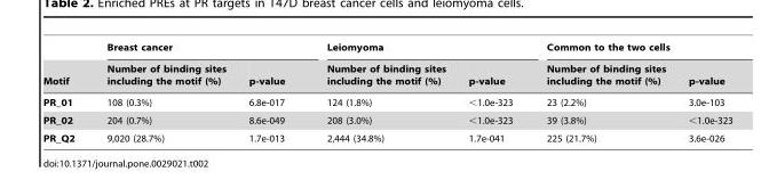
<table><thead><tr><td rowspan="2">Motif</td><td colspan="2">Breast cancer</td><td colspan="2">Leiomyoma</td><td colspan="2">Common to the two cells</td></tr><tr><td>Number of binding sites including the motif (%)</td><td>p-value</td><td>Number of binding sites including the motif (%)</td><td>p-value</td><td>Number of binding sites including the motif (%)</td><td>p-value</td></tr></thead><tbody><tr><td>PR_01</td><td>108 (0.3%)</td><td>6.8e-017</td><td>124 (1.8%)</td><td>&lt;1.0e-323</td><td>23 (2.2%)</td><td>3.0e-103</td></tr><tr><td>PR_02</td><td>204 (0.7%)</td><td>8.6e-049</td><td>208 (3.0%)</td><td>&lt;1.0e-323</td><td>39 (3.8%)</td><td>&lt;1.0e-323</td></tr><tr><td>PR_Q2</td><td>9,020 (28.7%)</td><td>1.7e-013</td><td>2,444 (34.8%)</td><td>1.7e-041</td><td>225 (21.7%)</td><td>3.6e-026</td></tr></tbody></table>